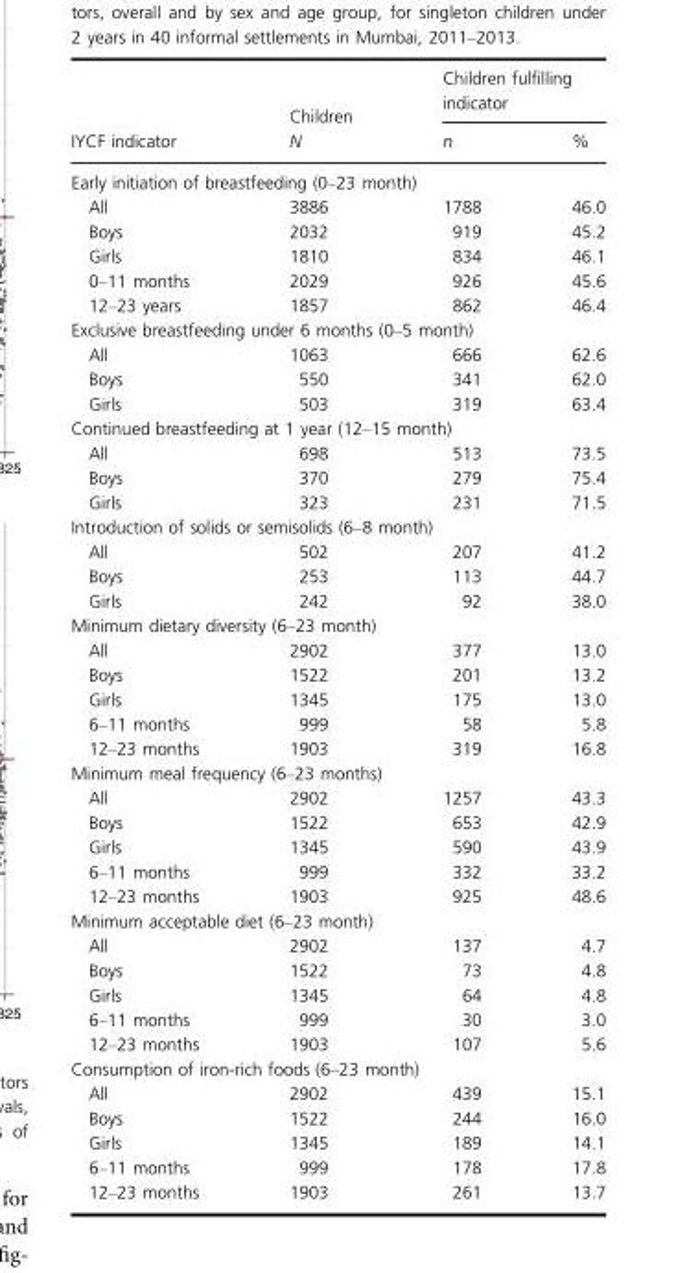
<table><thead><tr><td rowspan="2">IYCF indicator</td><td rowspan="2">Children N</td><td colspan="2">Children fulfilling indicator</td></tr><tr><td>n</td><td>%</td></tr></thead><tbody><tr><td colspan="4">Early initiation of breastfeeding (0–23 month)</td></tr><tr><td>All</td><td>3886</td><td>1788</td><td>46.0</td></tr><tr><td>Boys</td><td>2032</td><td>919</td><td>45.2</td></tr><tr><td>Girls</td><td>1810</td><td>834</td><td>46.1</td></tr><tr><td>0–11 months</td><td>2029</td><td>926</td><td>45.6</td></tr><tr><td>12–23 years</td><td>1857</td><td>862</td><td>46.4</td></tr><tr><td colspan="4">Exclusive breastfeeding under 6 months (0–5 month)</td></tr><tr><td>All</td><td>1063</td><td>666</td><td>62.6</td></tr><tr><td>Boys</td><td>550</td><td>341</td><td>62.0</td></tr><tr><td>Girls</td><td>503</td><td>319</td><td>63.4</td></tr><tr><td colspan="4">Continued breastfeeding at 1 year (12–15 month)</td></tr><tr><td>All</td><td>698</td><td>513</td><td>73.5</td></tr><tr><td>Boys</td><td>370</td><td>279</td><td>75.4</td></tr><tr><td>Girls</td><td>323</td><td>231</td><td>71.5</td></tr><tr><td colspan="4">Introduction of solids or semisolids (6–8 month)</td></tr><tr><td>All</td><td>502</td><td>207</td><td>41.2</td></tr><tr><td>Boys</td><td>253</td><td>113</td><td>44.7</td></tr><tr><td>Girls</td><td>242</td><td>92</td><td>38.0</td></tr><tr><td colspan="4">Minimum dietary diversity (6–23 month)</td></tr><tr><td>All</td><td>2902</td><td>377</td><td>13.0</td></tr><tr><td>Boys</td><td>1522</td><td>201</td><td>13.2</td></tr><tr><td>Girls</td><td>1345</td><td>175</td><td>13.0</td></tr><tr><td>6–11 months</td><td>999</td><td>58</td><td>5.8</td></tr><tr><td>12–23 months</td><td>1903</td><td>319</td><td>16.8</td></tr><tr><td colspan="4">Minimum meal frequency (6–23 months)</td></tr><tr><td>All</td><td>2902</td><td>1257</td><td>43.3</td></tr><tr><td>Boys</td><td>1522</td><td>653</td><td>42.9</td></tr><tr><td>Girls</td><td>1345</td><td>590</td><td>43.9</td></tr><tr><td>6–11 months</td><td>999</td><td>332</td><td>33.2</td></tr><tr><td>12–23 months</td><td>1903</td><td>925</td><td>48.6</td></tr><tr><td colspan="4">Minimum acceptable diet (6–23 month)</td></tr><tr><td>All</td><td>2902</td><td>137</td><td>4.7</td></tr><tr><td>Boys</td><td>1522</td><td>73</td><td>4.8</td></tr><tr><td>Girls</td><td>1345</td><td>64</td><td>4.8</td></tr><tr><td>6–11 months</td><td>999</td><td>30</td><td>3.0</td></tr><tr><td>12–23 months</td><td>1903</td><td>107</td><td>5.6</td></tr><tr><td colspan="4">Consumption of iron-rich foods (6–23 month)</td></tr><tr><td>All</td><td>2902</td><td>439</td><td>15.1</td></tr><tr><td>Boys</td><td>1522</td><td>244</td><td>16.0</td></tr><tr><td>Girls</td><td>1345</td><td>189</td><td>14.1</td></tr><tr><td>6–11 months</td><td>999</td><td>178</td><td>17.8</td></tr><tr><td>12–23 months</td><td>1903</td><td>261</td><td>13.7</td></tr></tbody></table>